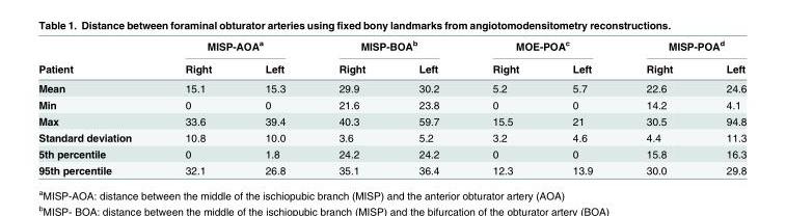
<table><thead><tr><td rowspan="2">Patient</td><td colspan="2">MISP-AOA<sup>a</sup></td><td colspan="2">MISP-BOA<sup>b</sup></td><td colspan="2">MOE-POA<sup>c</sup></td><td colspan="2">MISP-POA<sup>d</sup></td></tr><tr><td>Right</td><td>Left</td><td>Right</td><td>Left</td><td>Right</td><td>Left</td><td>Right</td><td>Left</td></tr></thead><tbody><tr><td>Mean</td><td>15.1</td><td>15.3</td><td>29.9</td><td>30.2</td><td>5.2</td><td>5.7</td><td>22.6</td><td>24.6</td></tr><tr><td>Min</td><td>0</td><td>0</td><td>21.6</td><td>23.8</td><td>0</td><td>0</td><td>14.2</td><td>4.1</td></tr><tr><td>Max</td><td>33.6</td><td>39.4</td><td>40.3</td><td>59.7</td><td>15.5</td><td>21</td><td>30.5</td><td>94.8</td></tr><tr><td>Standard deviation</td><td>10.8</td><td>10.0</td><td>3.6</td><td>5.2</td><td>3.2</td><td>4.6</td><td>4.4</td><td>11.3</td></tr><tr><td>5th percentile</td><td>0</td><td>1.8</td><td>24.2</td><td>24.2</td><td>0</td><td>0</td><td>15.8</td><td>16.3</td></tr><tr><td>95th percentile</td><td>32.1</td><td>26.8</td><td>35.1</td><td>36.4</td><td>12.3</td><td>13.9</td><td>30.0</td><td>29.8</td></tr></tbody></table>